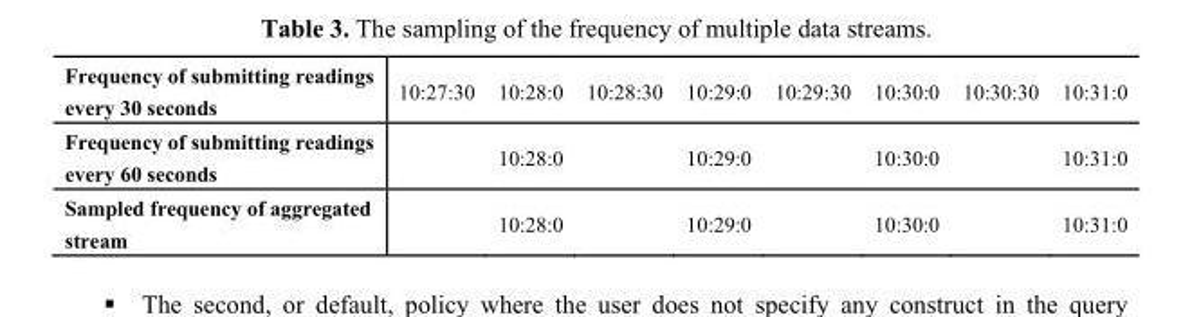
<table><tbody><tr><td>Frequency of submitting readings every 30 seconds</td><td>10:27:30</td><td>10:28:0</td><td>10:28:30</td><td>10:29:0</td><td>10:29:30</td><td>10:30:0</td><td>10:30:30</td><td>10:31:0</td></tr><tr><td>Frequency of submitting readings every 60 seconds</td><td></td><td>10:28:0</td><td></td><td>10:29:0</td><td></td><td>10:30:0</td><td></td><td>10:31:0</td></tr><tr><td>Sampled frequency of aggregated stream</td><td></td><td>10:28:0</td><td></td><td>10:29:0</td><td></td><td>10:30:0</td><td></td><td>10:31:0</td></tr></tbody></table>